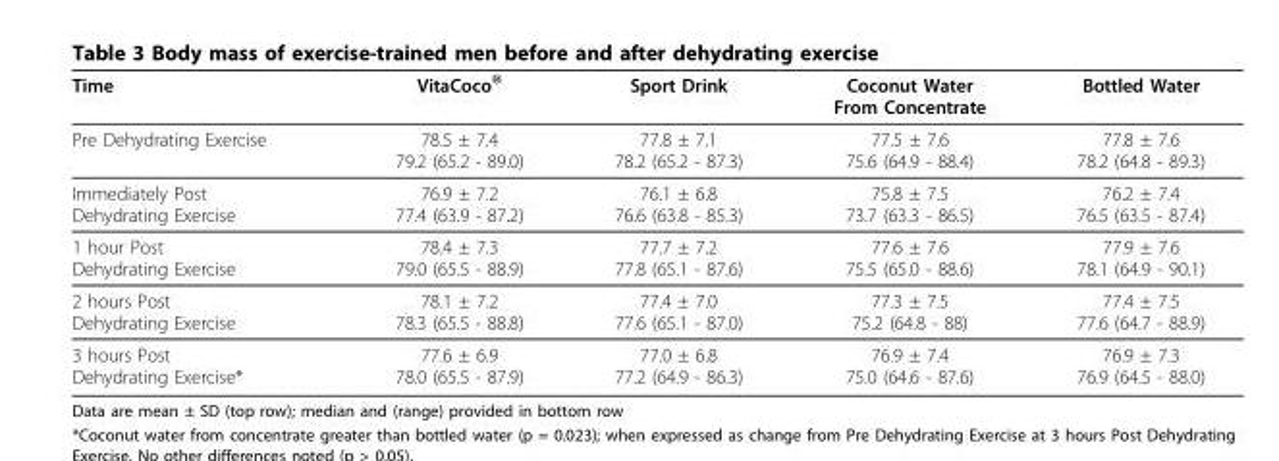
<table><thead><tr><td>Time</td><td>VitaCoco<sup>®</sup></td><td>Sport Drink</td><td>Coconut Water From Concentrate</td><td>Bottled Water</td></tr></thead><tbody><tr><td>Pre Dehydrating Exercise</td><td>78.5 ± 7.4 79.2 (65.2 - 89.0)</td><td>77.8 ± 7.1 78.2 (65.2 - 87.3)</td><td>77.5 ± 7.6 75.6 (64.9 - 88.4)</td><td>77.8 ± 7.6 78.2 (64.8 - 89.3)</td></tr><tr><td>Immediately Post Dehydrating Exercise</td><td>76.9 ± 7.2 77.4 (63.9 - 87.2)</td><td>76.1 ± 6.8 76.6 (63.8 - 85.3)</td><td>75.8 ± 7.5 73.7 (63.3 - 86.5)</td><td>76.2 ± 7.4 76.5 (63.5 - 87.4)</td></tr><tr><td>1 hour Post Dehydrating Exercise</td><td>78.4 ± 7.3 79.0 (65.5 - 88.9)</td><td>77.7 ± 7.2 77.8 (65.1 - 87.6)</td><td>77.6 ± 7.6 75.5 (65.0 - 88.6)</td><td>77.9 ± 7.6 78.1 (64.9 - 90.1)</td></tr><tr><td>2 hours Post Dehydrating Exercise</td><td>78.1 ± 7.2 78.3 (65.5 - 88.8)</td><td>77.4 ± 7.0 77.6 (65.1 - 87.0)</td><td>77.3 ± 7.5 75.2 (64.8 - 88)</td><td>77.4 ± 7.5 77.6 (64.7 - 88.9)</td></tr><tr><td>3 hours Post Dehydrating Exercise*</td><td>77.6 ± 6.9 78.0 (65.5 - 87.9)</td><td>77.0 ± 6.8 77.2 (64.9 - 86.3)</td><td>76.9 ± 7.4 75.0 (64.6 - 87.6)</td><td>76.9 ± 7.3 76.9 (64.5 - 88.0)</td></tr></tbody></table>